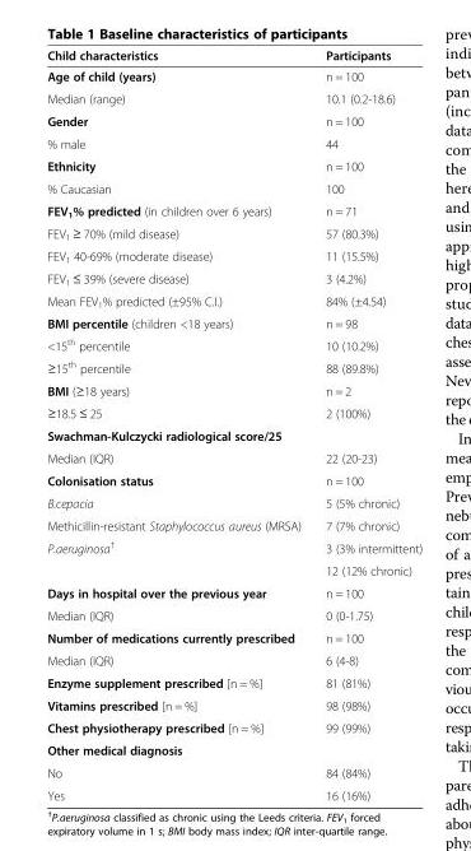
<table><thead><tr><td>Child characteristics</td><td>Participants</td></tr></thead><tbody><tr><td>Age of child (years)</td><td>n = 100</td></tr><tr><td>Median (range)</td><td>10.1 (0.2-18.6)</td></tr><tr><td>Gender</td><td>n = 100</td></tr><tr><td>% male</td><td>44</td></tr><tr><td>Ethnicity</td><td>n = 100</td></tr><tr><td>% Caucasian</td><td>100</td></tr><tr><td>FEV<sub>1</sub>% predicted (in children over 6 years)</td><td>n = 71</td></tr><tr><td>FEV<sub>1</sub> ≥ 70% (mild disease)</td><td>57 (80.3%)</td></tr><tr><td>FEV<sub>1</sub> 40-69% (moderate disease)</td><td>11 (15.5%)</td></tr><tr><td>FEV<sub>1</sub> ≤ 39% (severe disease)</td><td>3 (4.2%)</td></tr><tr><td>Mean FEV<sub>1</sub>% predicted (±95% C.I.)</td><td>84% (±4.54)</td></tr><tr><td>BMI percentile (children &lt;18 years)</td><td>n = 98</td></tr><tr><td>&lt;15<sup>th</sup> percentile</td><td>10 (10.2%)</td></tr><tr><td>≥15<sup>th</sup> percentile</td><td>88 (89.8%)</td></tr><tr><td>BMI (≥18 years)</td><td>n = 2</td></tr><tr><td>≥18.5 ≤ 25</td><td>2 (100%)</td></tr><tr><td colspan="2">Swachman-Kulczycki radiological score/25</td></tr><tr><td>Median (IQR)</td><td>22 (20-23)</td></tr><tr><td>Colonisation status</td><td>n = 100</td></tr><tr><td>B.cepacia</td><td>5 (5% chronic)</td></tr><tr><td>Methicillin-resistant Staphylococcus aureus (MRSA)</td><td>7 (7% chronic)</td></tr><tr><td rowspan="2">P.aeruginosa<sup>†</sup></td><td>3 (3% intermittent)</td></tr><tr><td>12 (12% chronic)</td></tr><tr><td>Days in hospital over the previous year</td><td>n = 100</td></tr><tr><td>Median (IQR)</td><td>0 (0-1.75)</td></tr><tr><td>Number of medications currently prescribed</td><td>n = 100</td></tr><tr><td>Median (IQR)</td><td>6 (4-8)</td></tr><tr><td>Enzyme supplement prescribed [n = %]</td><td>81 (81%)</td></tr><tr><td>Vitamins prescribed [n = %]</td><td>98 (98%)</td></tr><tr><td>Chest physiotherapy prescribed [n = %]</td><td>99 (99%)</td></tr><tr><td colspan="2">Other medical diagnosis</td></tr><tr><td>No</td><td>84 (84%)</td></tr><tr><td>Yes</td><td>16 (16%)</td></tr></tbody></table>